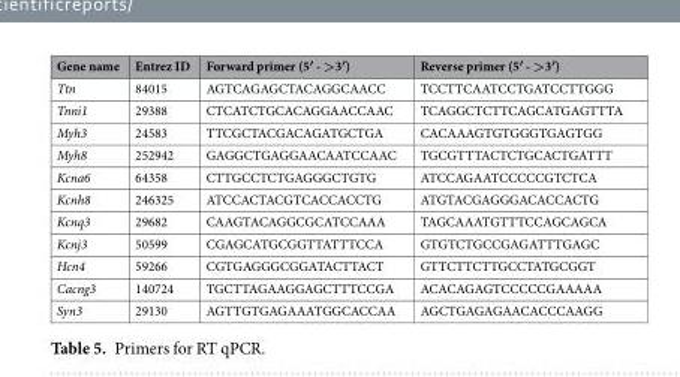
<table><thead><tr><td>Gene name</td><td>Entrez ID</td><td>Forward primer (5′ - &gt;3′)</td><td>Reverse primer (5′ - &gt;3′)</td></tr></thead><tbody><tr><td>Ttn</td><td>84015</td><td>AGTCAGAGCTACAGGCAACC</td><td>TCCTTCAATCCTGATCCTTGGG</td></tr><tr><td>Tnni1</td><td>29388</td><td>CTCATCTGCACAGGAACCAAC</td><td>TCAGGCTCTTCAGCATGAGTTTA</td></tr><tr><td>Myh3</td><td>24583</td><td>TTCGCTACGACAGATGCTGA</td><td>CACAAAGTGTGGGTGAGTGG</td></tr><tr><td>Myh8</td><td>252942</td><td>GAGGCTGAGGAACAATCCAAC</td><td>TGCGTTTACTCTGCACTGATTT</td></tr><tr><td>Kcna6</td><td>64358</td><td>CTTGCCTCTGAGGGCTGTG</td><td>ATCCAGAATCCCCCGTCTCA</td></tr><tr><td>Kcnh8</td><td>246325</td><td>ATCCACTACGTCACCACCTG</td><td>ATGTACGAGGGACACCACTG</td></tr><tr><td>Kcnq3</td><td>29682</td><td>CAAGTACAGGCGCATCCAAA</td><td>TAGCAAATGTTTCCAGCAGCA</td></tr><tr><td>Kcnj3</td><td>50599</td><td>CGAGCATGCGGTTATTTCCA</td><td>GTGTCTGCCGAGATTTGAGC</td></tr><tr><td>Hcn4</td><td>59266</td><td>CGTGAGGGCGGATACTTACT</td><td>GTTCTTCTTGCCTATGCGGT</td></tr><tr><td>Cacng3</td><td>140724</td><td>TGCTTAGAAGGAGCTTTCCGA</td><td>ACACAGAGTCCCCCGAAAAA</td></tr><tr><td>Syn3</td><td>29130</td><td>AGTTGTGAGAAATGGCACCAA</td><td>AGCTGAGAGAACACCCAAGG</td></tr></tbody></table>